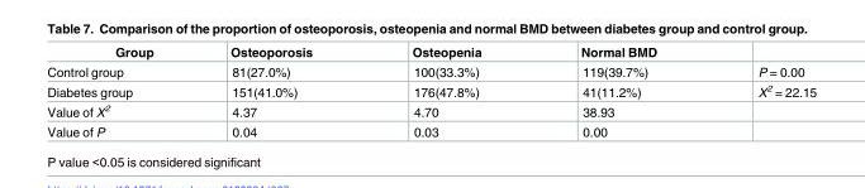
<table><thead><tr><td>Group</td><td>Osteoporosis</td><td>Osteopenia</td><td>Normal BMD</td><td></td></tr></thead><tbody><tr><td>Control group</td><td>81(27.0%)</td><td>100(33.3%)</td><td>119(39.7%)</td><td>P = 0.00</td></tr><tr><td>Diabetes group</td><td>151(41.0%)</td><td>176(47.8%)</td><td>41(11.2%)</td><td>X<sup>2</sup> = 22.15</td></tr><tr><td>Value of X<sup>2</sup></td><td>4.37</td><td>4.70</td><td>38.93</td><td></td></tr><tr><td>Value of P</td><td>0.04</td><td>0.03</td><td>0.00</td><td></td></tr></tbody></table>